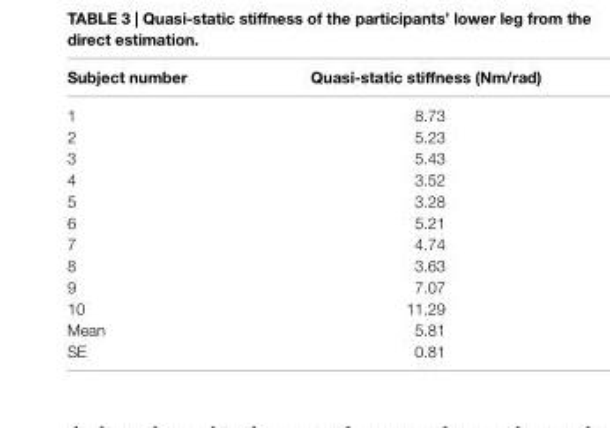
<table><thead><tr><td>subject number</td><td>Quasi-static stiffness (nm/rad)</td></tr></thead><tbody><tr><td>1</td><td>8.73</td></tr><tr><td>2</td><td>5.23</td></tr><tr><td>3</td><td>5.43</td></tr><tr><td>4</td><td>3.52</td></tr><tr><td>5</td><td>3.28</td></tr><tr><td>6</td><td>5.21</td></tr><tr><td>7</td><td>4.74</td></tr><tr><td>8</td><td>3.63</td></tr><tr><td>9</td><td>7.07</td></tr><tr><td>10</td><td>11.29</td></tr><tr><td>Mean</td><td>5.81</td></tr><tr><td>SE</td><td>0.81</td></tr></tbody></table>